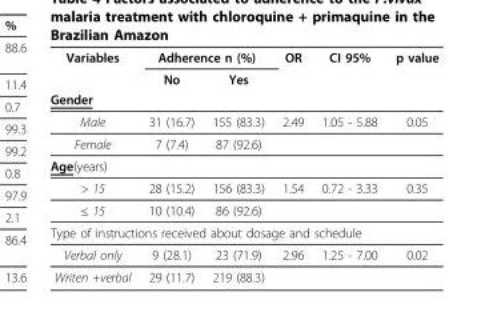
<table><thead><tr><td rowspan="2">Variables</td><td colspan="2">Adherence n (%)</td><td rowspan="2">OR</td><td rowspan="2">CI 95%</td><td rowspan="2">p value</td></tr><tr><td>No</td><td>Yes</td></tr><tr><td colspan="6">Gender</td></tr></thead><tbody><tr><td>Male</td><td>31 (16.7)</td><td>155 (83.3)</td><td>2.49</td><td>1.05 - 5.88</td><td>0.05</td></tr><tr><td>Female</td><td>7 (7.4)</td><td>87 (92.6)</td><td></td><td></td><td></td></tr><tr><td colspan="6">Age(years)</td></tr><tr><td>&gt; 15</td><td>28 (15.2)</td><td>156 (83.3)</td><td>1.54</td><td>0.72 - 3.33</td><td>0.35</td></tr><tr><td>≤ 15</td><td>10 (10.4)</td><td>86 (92.6)</td><td></td><td></td><td></td></tr><tr><td colspan="6">Type of instructions received about dosage and schedule</td></tr><tr><td>Verbal only</td><td>9 (28.1)</td><td>23 (71.9)</td><td>2.96</td><td>1.25 - 7.00</td><td>0.02</td></tr><tr><td>Writen +verbal</td><td>29 (11.7)</td><td>219 (88.3)</td><td></td><td></td><td></td></tr></tbody></table>